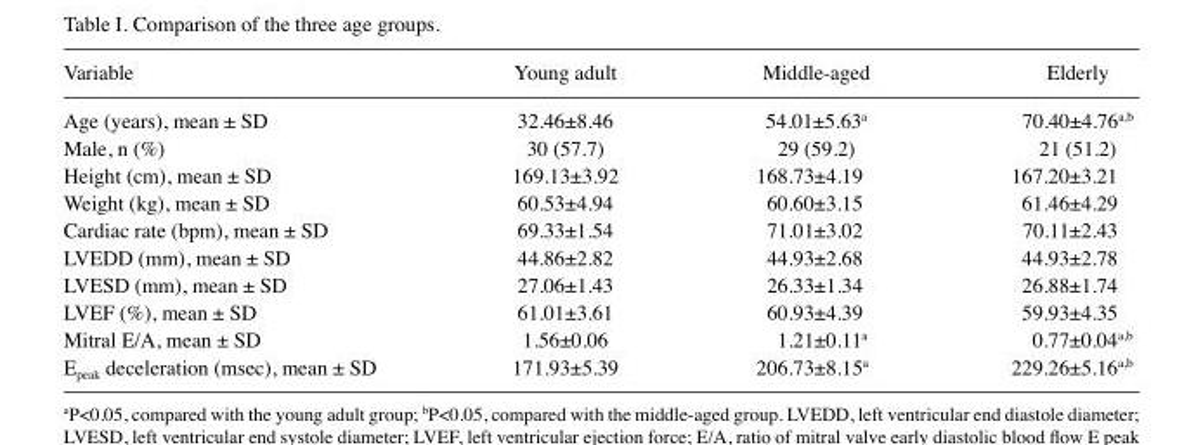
<table><thead><tr><td>Variable</td><td>Young adult</td><td>Middle-aged</td><td>Elderly</td></tr></thead><tbody><tr><td>Age (years), mean ± SD</td><td>32.46±8.46</td><td>54.01±5.63<sup>a</sup></td><td>70.40±4.76<sup>a,b</sup></td></tr><tr><td>Male, n (%)</td><td>30 (57.7)</td><td>29 (59.2)</td><td>21 (51.2)</td></tr><tr><td>Height (cm), mean ± SD</td><td>169.13±3.92</td><td>168.73±4.19</td><td>167.20±3.21</td></tr><tr><td>Weight (kg), mean ± SD</td><td>60.53±4.94</td><td>60.60±3.15</td><td>61.46±4.29</td></tr><tr><td>Cardiac rate (bpm), mean ± SD</td><td>69.33±1.54</td><td>71.01±3.02</td><td>70.11±2.43</td></tr><tr><td>LVEDD (mm), mean ± SD</td><td>44.86±2.82</td><td>44.93±2.68</td><td>44.93±2.78</td></tr><tr><td>LVESD (mm), mean ± SD</td><td>27.06±1.43</td><td>26.33±1.34</td><td>26.88±1.74</td></tr><tr><td>LVEF (%), mean ± SD</td><td>61.01±3.61</td><td>60.93±4.39</td><td>59.93±4.35</td></tr><tr><td>Mitral E/A, mean ± SD</td><td>1.56±0.06</td><td>1.21±0.11<sup>a</sup></td><td>0.77±0.04<sup>a,b</sup></td></tr><tr><td>E<sub>peak</sub> deceleration (msec), mean ± SD</td><td>171.93±5.39</td><td>206.73±8.15<sup>a</sup></td><td>229.26±5.16<sup>a,b</sup></td></tr></tbody></table>